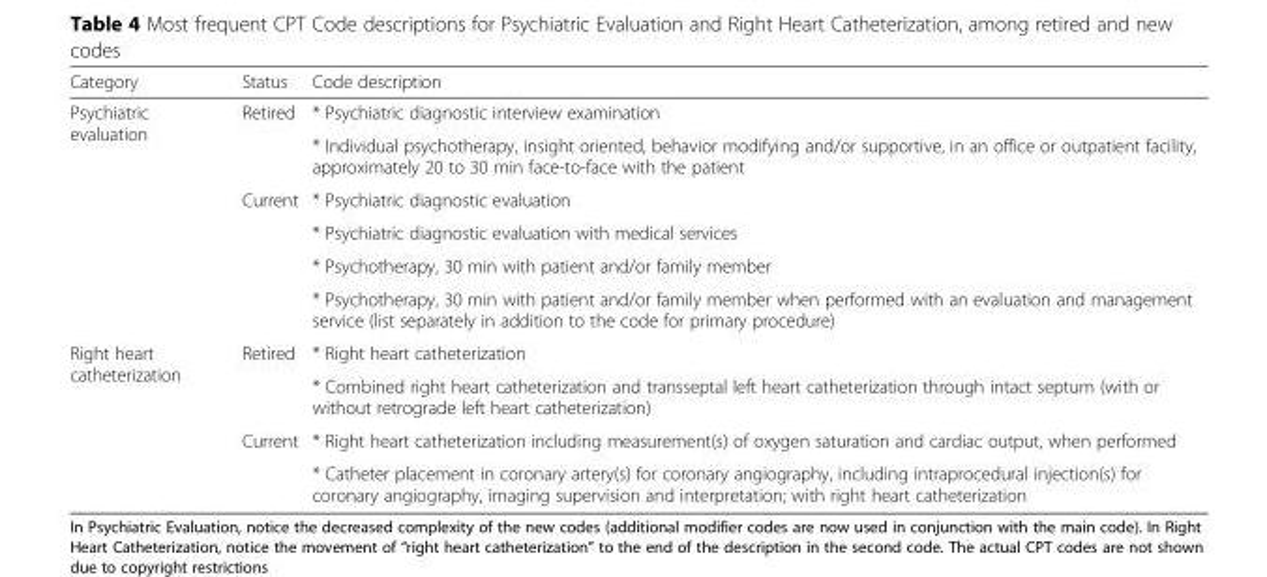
<table><thead><tr><td>Category</td><td>Status</td><td>Code description</td></tr></thead><tbody><tr><td rowspan="6">Psychiatric evaluation</td><td rowspan="2">Retired</td><td>* Psychiatric diagnostic interview examination</td></tr><tr><td>* Individual psychotherapy, insight oriented, behavior modifying and/or supportive, in an office or outpatient facility, approximately 20 to 30 min face-to-face with the patient</td></tr><tr><td rowspan="4">Current</td><td>* Psychiatric diagnostic evaluation</td></tr><tr><td>* Psychiatric diagnostic evaluation with medical services</td></tr><tr><td>* Psychotherapy, 30 min with patient and/or family member</td></tr><tr><td>* Psychotherapy, 30 min with patient and/or family member when performed with an evaluation and management service (list separately in addition to the code for primary procedure)</td></tr><tr><td rowspan="4">Right heart catheterization</td><td rowspan="2">Retired</td><td>* Right heart catheterization</td></tr><tr><td>* Combined right heart catheterization and transseptal left heart catheterization through intact septum (with or without retrograde left heart catheterization)</td></tr><tr><td rowspan="2">Current</td><td>* Right heart catheterization including measurement(s) of oxygen saturation and cardiac output, when performed</td></tr><tr><td>* Catheter placement in coronary artery(s) for coronary angiography, including intraprocedural injection(s) for coronary angiography, imaging supervision and interpretation; with right heart catheterization</td></tr></tbody></table>